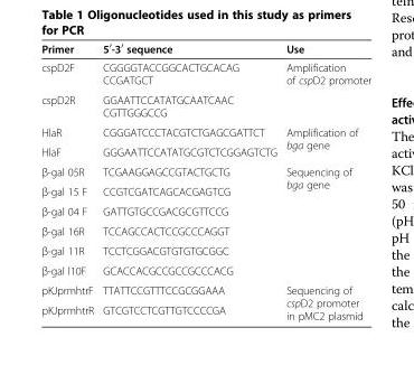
<table><thead><tr><td>Primer</td><td>5<sup>′</sup>-3<sup>′</sup> sequence</td><td>Use</td></tr></thead><tbody><tr><td>cspD2F</td><td>CGGGGTACCGGCACTGCACAG CCGATGCT</td><td rowspan="2">Amplification of cspD2 promoter</td></tr><tr><td>cspD2R</td><td>GGAATTCCATATGCAATCAAC CGTTGGGCCG</td></tr><tr><td>HlaR</td><td>CGGGATCCCTACGTCTGAGCGATTCT</td><td rowspan="2">Amplification of bga gene</td></tr><tr><td>HlaF</td><td>GGGAATTCCATATGCGTCTCGGAGTCTG</td></tr><tr><td>β-gal 05R</td><td>TCGAAGGAGCCGTACTGCTG</td><td rowspan="6">Sequencing of bga gene</td></tr><tr><td>β-gal 15 F</td><td>CCGTCGATCAGCACGAGTCG</td></tr><tr><td>β-gal 04 F</td><td>GATTGTGCCGACGCGTTCCG</td></tr><tr><td>β-gal 16R</td><td>TCCAGCCACTCCGCCCAGGT</td></tr><tr><td>β-gal 11R</td><td>TCCTCGGACGTGTGTGCGGC</td></tr><tr><td>β-gal l10F</td><td>GCACCACGCCGCCGCCCACG</td></tr><tr><td>pKJprmhtrF</td><td>TTATTCCGTTTCCGCGGAAA</td><td rowspan="2">Sequencing of cspD2 promoter in pMC2 plasmid</td></tr><tr><td>pKJprmhtrR</td><td>GTCGTCCTCGTTGTCCCCGA</td></tr></tbody></table>